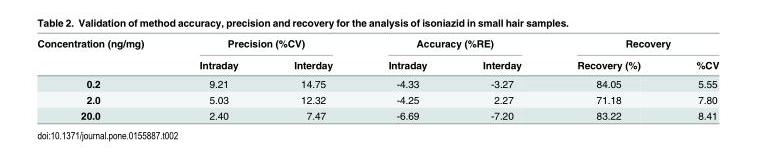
<table><thead><tr><td rowspan="2">Concentration (ng/mg)</td><td colspan="2">Precision (%CV)</td><td colspan="2">Accuracy (%RE)</td><td colspan="2">Recovery</td></tr><tr><td>Intraday</td><td>Interday</td><td>Intraday</td><td>Interday</td><td>Recovery (%)</td><td>%CV</td></tr></thead><tbody><tr><td>0.2</td><td>9.21</td><td>14.75</td><td>-4.33</td><td>-3.27</td><td>84.05</td><td>5.55</td></tr><tr><td>2.0</td><td>5.03</td><td>12.32</td><td>-4.25</td><td>2.27</td><td>71.18</td><td>7.80</td></tr><tr><td>20.0</td><td>2.40</td><td>7.47</td><td>-6.69</td><td>-7.20</td><td>83.22</td><td>8.41</td></tr></tbody></table>